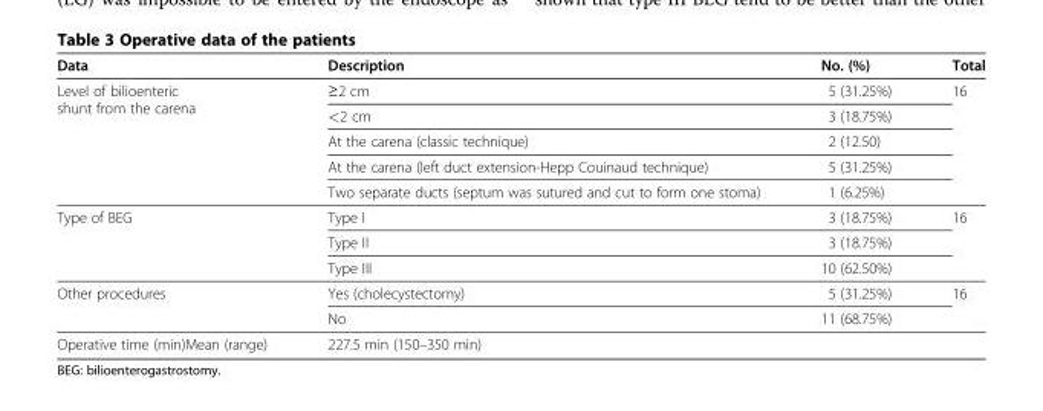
<table><thead><tr><td>Data</td><td>Description</td><td>No. (%)</td><td>Total</td></tr></thead><tbody><tr><td rowspan="5">Level of bilioenteric shunt from the carena</td><td>≥2 cm</td><td>5 (31.25%)</td><td rowspan="5">16</td></tr><tr><td>&lt;2 cm</td><td>3 (18.75%)</td></tr><tr><td>At the carena (classic technique)</td><td>2 (12.50)</td></tr><tr><td>At the carena (left duct extension-Hepp Couinaud technique)</td><td>5 (31.25%)</td></tr><tr><td>Two separate ducts (septum was sutured and cut to form one stoma)</td><td>1 (6.25%)</td></tr><tr><td rowspan="3">Type of BEG</td><td>Type I</td><td>3 (18.75%)</td><td rowspan="3">16</td></tr><tr><td>Type II</td><td>3 (18.75%)</td></tr><tr><td>Type III</td><td>10 (62.50%)</td></tr><tr><td rowspan="2">Other procedures</td><td>Yes (cholecystectomy)</td><td>5 (31.25%)</td><td rowspan="2">16</td></tr><tr><td>No</td><td>11 (68.75%)</td></tr><tr><td>Operative time (min)Mean (range)</td><td colspan="3">227.5 min (150–350 min)</td></tr></tbody></table>